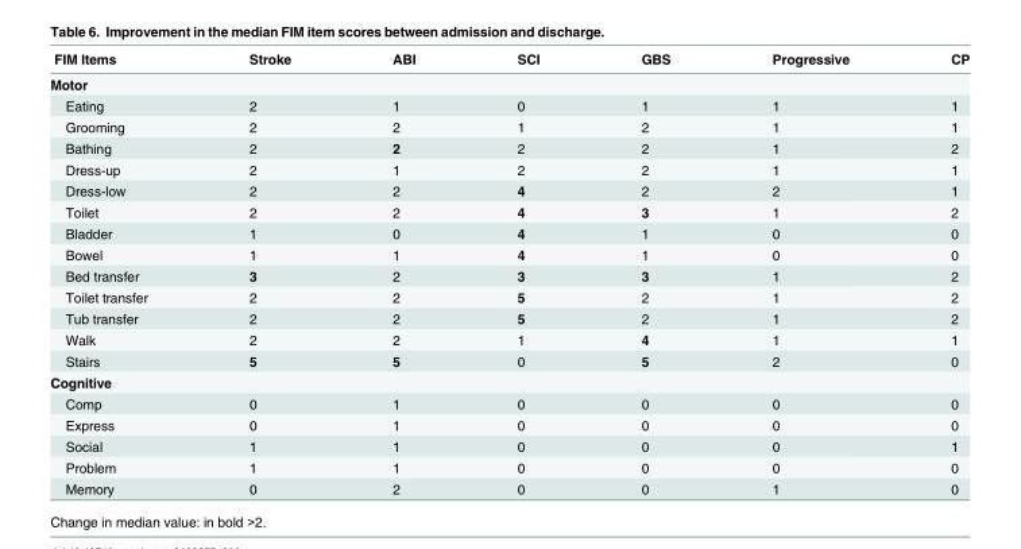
<table><thead><tr><td>FIM Items</td><td>Stroke</td><td>ABI</td><td>SCI</td><td>GBS</td><td>Progressive</td><td>CP</td></tr></thead><tbody><tr><td colspan="7">Motor</td></tr><tr><td>Eating</td><td>2</td><td>1</td><td>0</td><td>1</td><td>1</td><td>1</td></tr><tr><td>Grooming</td><td>2</td><td>2</td><td>1</td><td>2</td><td>1</td><td>1</td></tr><tr><td>Bathing</td><td>2</td><td>2</td><td>2</td><td>2</td><td>1</td><td>2</td></tr><tr><td>Dress-up</td><td>2</td><td>1</td><td>2</td><td>2</td><td>1</td><td>1</td></tr><tr><td>Dress-low</td><td>2</td><td>2</td><td>4</td><td>2</td><td>2</td><td>1</td></tr><tr><td>Toilet</td><td>2</td><td>2</td><td>4</td><td>3</td><td>1</td><td>2</td></tr><tr><td>Bladder</td><td>1</td><td>0</td><td>4</td><td>1</td><td>0</td><td>0</td></tr><tr><td>Bowel</td><td>1</td><td>1</td><td>4</td><td>1</td><td>0</td><td>0</td></tr><tr><td>Bed transfer</td><td>3</td><td>2</td><td>3</td><td>3</td><td>1</td><td>2</td></tr><tr><td>Toilet transfer</td><td>2</td><td>2</td><td>5</td><td>2</td><td>1</td><td>2</td></tr><tr><td>Tub transfer</td><td>2</td><td>2</td><td>5</td><td>2</td><td>1</td><td>2</td></tr><tr><td>Walk</td><td>2</td><td>2</td><td>1</td><td>4</td><td>1</td><td>1</td></tr><tr><td>Stairs</td><td>5</td><td>5</td><td>0</td><td>5</td><td>2</td><td>0</td></tr><tr><td colspan="7">Cognitive</td></tr><tr><td>Comp</td><td>0</td><td>1</td><td>0</td><td>0</td><td>0</td><td>0</td></tr><tr><td>Express</td><td>0</td><td>1</td><td>0</td><td>0</td><td>0</td><td>0</td></tr><tr><td>Social</td><td>1</td><td>1</td><td>0</td><td>0</td><td>0</td><td>1</td></tr><tr><td>Problem</td><td>1</td><td>1</td><td>0</td><td>0</td><td>0</td><td>0</td></tr><tr><td>Memory</td><td>0</td><td>2</td><td>0</td><td>0</td><td>1</td><td>0</td></tr></tbody></table>